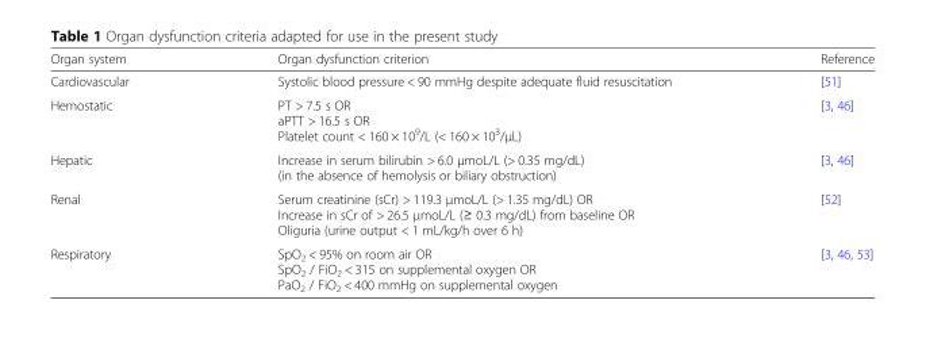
<table><thead><tr><td>Organ system</td><td>Organ dysfunction criterion</td><td>Reference</td></tr></thead><tbody><tr><td>Cardiovascular</td><td>Systolic blood pressure &lt; 90 mmHg despite adequate fluid resuscitation</td><td>[51]</td></tr><tr><td>Hemostatic</td><td>PT &gt; 7.5 s OR aPTT &gt; 16.5 s OR Platelet count &lt; 160 × 10<sup>9</sup>/L (&lt; 160 × 10<sup>3</sup>/μL)</td><td>[3, 46]</td></tr><tr><td>Hepatic</td><td>Increase in serum bilirubin &gt; 6.0 μmoL/L (&gt; 0.35 mg/dL) (in the absence of hemolysis or biliary obstruction)</td><td>[3, 46]</td></tr><tr><td>Renal</td><td>Serum creatinine (sCr) &gt; 119.3 μmoL/L (&gt; 1.35 mg/dL) OR Increase in sCr of &gt; 26.5 μmoL/L (≥ 0.3 mg/dL) from baseline OR Oliguria (urine output &lt; 1 mL/kg/h over 6 h)</td><td>[52]</td></tr><tr><td>Respiratory</td><td>SpO<sub>2</sub> &lt; 95% on room air OR SpO<sub>2</sub> / FiO<sub>2</sub> &lt; 315 on supplemental oxygen OR PaO<sub>2</sub> / FiO<sub>2</sub> &lt; 400 mmHg on supplemental oxygen</td><td>[3, 46, 53]</td></tr></tbody></table>